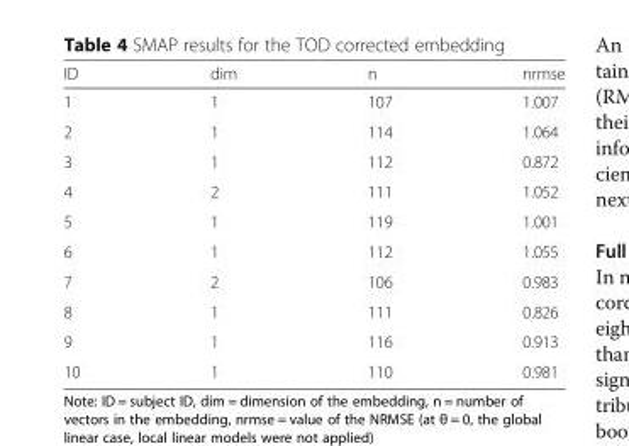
<table><thead><tr><td>ID</td><td>dim</td><td>n</td><td>nrmse</td></tr></thead><tbody><tr><td>1</td><td>1</td><td>107</td><td>1.007</td></tr><tr><td>2</td><td>1</td><td>114</td><td>1.064</td></tr><tr><td>3</td><td>1</td><td>112</td><td>0.872</td></tr><tr><td>4</td><td>2</td><td>111</td><td>1.052</td></tr><tr><td>5</td><td>1</td><td>119</td><td>1.001</td></tr><tr><td>6</td><td>1</td><td>112</td><td>1.055</td></tr><tr><td>7</td><td>2</td><td>106</td><td>0.983</td></tr><tr><td>8</td><td>1</td><td>111</td><td>0.826</td></tr><tr><td>9</td><td>1</td><td>116</td><td>0.913</td></tr><tr><td>10</td><td>1</td><td>110</td><td>0.981</td></tr></tbody></table>